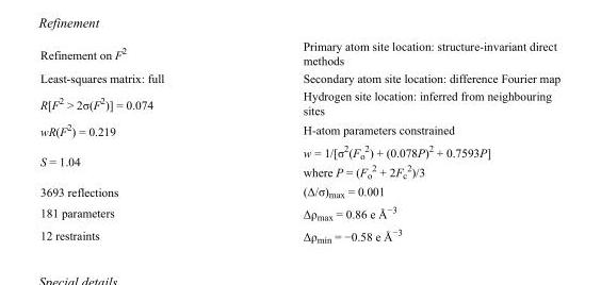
<table><tbody><tr><td>Refinement on F<sup>2</sup></td><td>Primary atom site location: structure-invariant direct methods</td></tr><tr><td>Least-squares matrix: full</td><td>Secondary atom site location: difference Fourier map</td></tr><tr><td>R[F<sup>2</sup> &gt; 2σ(F<sup>2</sup>)] = 0.074</td><td>Hydrogen site location: inferred from neighbouring sites</td></tr><tr><td>wR(F<sup>2</sup>) = 0.219</td><td>H-atom parameters constrained</td></tr><tr><td>S = 1.04</td><td>w = 1/[σ<sup>2</sup>(F<sub>o</sub> <sup>2</sup>) + (0.078P)<sup>2</sup> + 0.7593P] where P = (F<sub>o</sub> <sup>2</sup> + 2F<sub>c</sub> <sup>2</sup>)/3</td></tr><tr><td>3693 reflections</td><td>(Δ/σ)<sub>max</sub> = 0.001</td></tr><tr><td>181 parameters</td><td>Δρ<sub>max</sub> = 0.86 e Å<sup>−3</sup></td></tr><tr><td>12 restraints</td><td>Δρ<sub>min</sub> = −0.58 e Å<sup>−3</sup></td></tr></tbody></table>